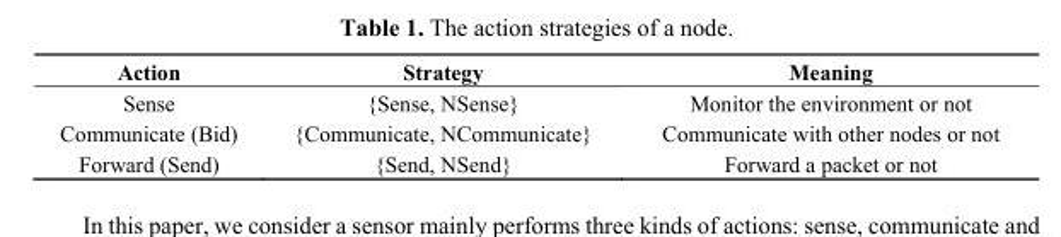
<table><thead><tr><td>Action</td><td>Strategy</td><td>Meaning</td></tr></thead><tbody><tr><td>Sense</td><td>{Sense, NSense}</td><td>Monitor the environment or not</td></tr><tr><td>Communicate (Bid)</td><td>{Communicate, NCommunicate}</td><td>Communicate with other nodes or not</td></tr><tr><td>Forward (Send)</td><td>{Send, NSend}</td><td>Forward a packet or not</td></tr></tbody></table>